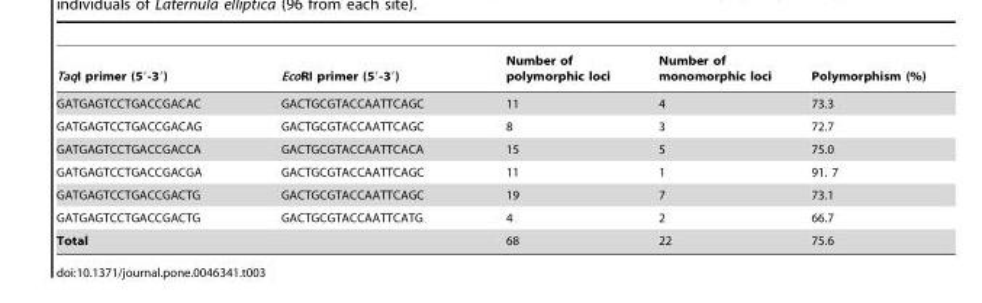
<table><thead><tr><td>TaqI primer (5′-3′)</td><td>EcoRI primer (5′-3′)</td><td>Number of polymorphic loci</td><td>Number of monomorphic loci</td><td>Polymorphism (%)</td></tr></thead><tbody><tr><td>GATGAGTCCTGACCGACAC</td><td>GACTGCGTACCAATTCAGC</td><td>11</td><td>4</td><td>73.3</td></tr><tr><td>GATGAGTCCTGACCGACAG</td><td>GACTGCGTACCAATTCAGC</td><td>8</td><td>3</td><td>72.7</td></tr><tr><td>GATGAGTCCTGACCGACCA</td><td>GACTGCGTACCAATTCACA</td><td>15</td><td>5</td><td>75.0</td></tr><tr><td>GATGAGTCCTGACCGACGA</td><td>GACTGCGTACCAATTCAGC</td><td>11</td><td>1</td><td>91. 7</td></tr><tr><td>GATGAGTCCTGACCGACTG</td><td>GACTGCGTACCAATTCAGC</td><td>19</td><td>7</td><td>73.1</td></tr><tr><td>GATGAGTCCTGACCGACTG</td><td>GACTGCGTACCAATTCATG</td><td>4</td><td>2</td><td>66.7</td></tr><tr><td>Total</td><td></td><td>68</td><td>22</td><td>75.6</td></tr></tbody></table>